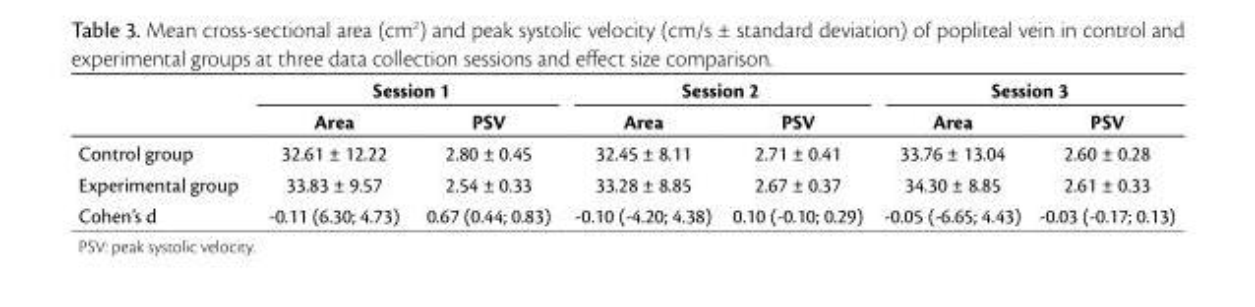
<table><thead><tr><td rowspan="2"></td><td colspan="2">Session 1</td><td colspan="2">Session 2</td><td colspan="2">Session 3</td></tr><tr><td>Area</td><td>PSV</td><td>Area</td><td>PSV</td><td>Area</td><td>PSV</td></tr></thead><tbody><tr><td>Control group</td><td>32.61 ± 12.22</td><td>2.80 ± 0.45</td><td>32.45 ± 8.11</td><td>2.71 ± 0.41</td><td>33.76 ± 13.04</td><td>2.60 ± 0.28</td></tr><tr><td>Experimental group</td><td>33.83 ± 9.57</td><td>2.54 ± 0.33</td><td>33.28 ± 8.85</td><td>2.67 ± 0.37</td><td>34.30 ± 8.85</td><td>2.61 ± 0.33</td></tr><tr><td>Cohen’s d</td><td>-0.11 (6.30; 4.73)</td><td>0.67 (0.44; 0.83)</td><td>-0.10 (-4.20; 4.38)</td><td>0.10 (-0.10; 0.29)</td><td>-0.05 (-6.65; 4.43)</td><td>-0.03 (-0.17; 0.13)</td></tr></tbody></table>